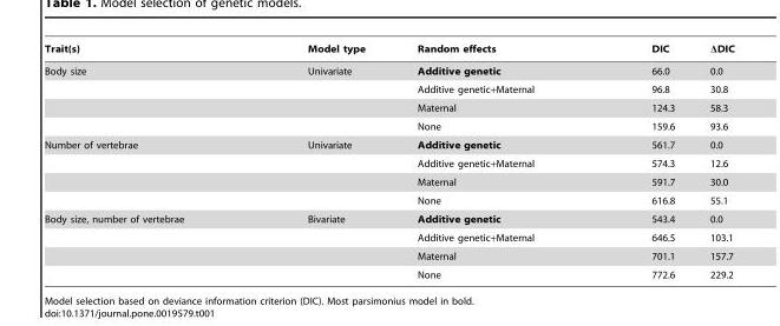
<table><thead><tr><td>Trait(s)</td><td>Model type</td><td>Random effects</td><td>DIC</td><td>ΔDIC</td></tr></thead><tbody><tr><td rowspan="4">Body size</td><td>Univariate</td><td>Additive genetic</td><td>66.0</td><td>0.0</td></tr><tr><td></td><td>Additive genetic+Maternal</td><td>96.8</td><td>30.8</td></tr><tr><td></td><td>Maternal</td><td>124.3</td><td>58.3</td></tr><tr><td></td><td>None</td><td>159.6</td><td>93.6</td></tr><tr><td rowspan="4">Number of vertebrae</td><td>Univariate</td><td>Additive genetic</td><td>561.7</td><td>0.0</td></tr><tr><td></td><td>Additive genetic+Maternal</td><td>574.3</td><td>12.6</td></tr><tr><td></td><td>Maternal</td><td>591.7</td><td>30.0</td></tr><tr><td></td><td>None</td><td>616.8</td><td>55.1</td></tr><tr><td rowspan="4">Body size, number of vertebrae</td><td>Bivariate</td><td>Additive genetic</td><td>543.4</td><td>0.0</td></tr><tr><td></td><td>Additive genetic+Maternal</td><td>646.5</td><td>103.1</td></tr><tr><td></td><td>Maternal</td><td>701.1</td><td>157.7</td></tr><tr><td></td><td>None</td><td>772.6</td><td>229.2</td></tr></tbody></table>